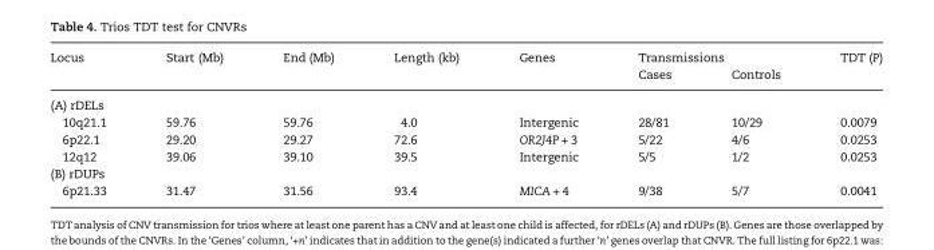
<table><thead><tr><td rowspan="2">Locus</td><td rowspan="2">Start (Mb)</td><td rowspan="2">End (Mb)</td><td rowspan="2">Length (kb)</td><td rowspan="2">Genes</td><td colspan="2">Transmissions</td><td rowspan="2">TDT (P)</td></tr><tr><td>Cases</td><td>Controls</td></tr></thead><tbody><tr><td colspan="8">(A) rDELs</td></tr><tr><td>10q21.1</td><td>59.76</td><td>59.76</td><td>4.0</td><td>Intergenic</td><td>28/81</td><td>10/29</td><td>0.0079</td></tr><tr><td>6p22.1</td><td>29.20</td><td>29.27</td><td>72.6</td><td>OR2J4P + 3</td><td>5/22</td><td>4/6</td><td>0.0253</td></tr><tr><td>12q12</td><td>39.06</td><td>39.10</td><td>39.5</td><td>Intergenic</td><td>5/5</td><td>1/2</td><td>0.0253</td></tr><tr><td colspan="8">(B) rDUPs</td></tr><tr><td>6p21.33</td><td>31.47</td><td>31.56</td><td>93.4</td><td>MICA + 4</td><td>9/38</td><td>5/7</td><td>0.0041</td></tr></tbody></table>